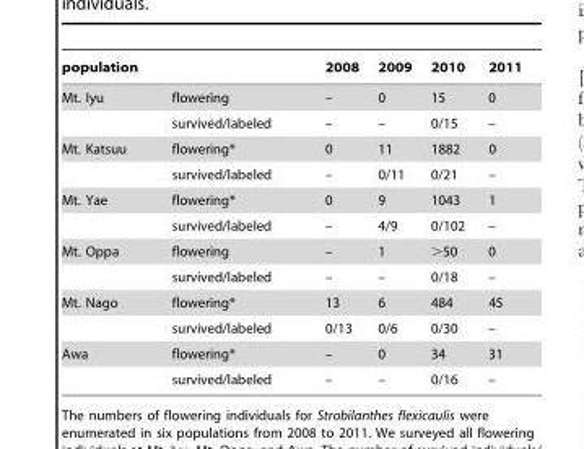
<table><thead><tr><td>population</td><td></td><td>2008</td><td>2009</td><td>2010</td><td>2011</td></tr></thead><tbody><tr><td rowspan="2">Mt. Iyu</td><td>flowering</td><td>–</td><td>0</td><td>15</td><td>0</td></tr><tr><td>survived/labeled</td><td>–</td><td>–</td><td>0/15</td><td>–</td></tr><tr><td rowspan="2">Mt. Katsuu</td><td>flowering*</td><td>0</td><td>11</td><td>1882</td><td>0</td></tr><tr><td>survived/labeled</td><td>–</td><td>0/11</td><td>0/21</td><td>–</td></tr><tr><td rowspan="2">Mt. Yae</td><td>flowering*</td><td>0</td><td>9</td><td>1043</td><td>1</td></tr><tr><td>survived/labeled</td><td>–</td><td>4/9</td><td>0/102</td><td>–</td></tr><tr><td rowspan="2">Mt. Oppa</td><td>flowering</td><td>–</td><td>1</td><td>&gt;50</td><td>0</td></tr><tr><td>survived/labeled</td><td>–</td><td>–</td><td>0/18</td><td>–</td></tr><tr><td rowspan="2">Mt. Nago</td><td>flowering*</td><td>13</td><td>6</td><td>484</td><td>45</td></tr><tr><td>survived/labeled</td><td>0/13</td><td>0/6</td><td>0/30</td><td>–</td></tr><tr><td rowspan="2">Awa</td><td>flowering*</td><td>–</td><td>0</td><td>34</td><td>31</td></tr><tr><td>survived/labeled</td><td>–</td><td>–</td><td>0/16</td><td>–</td></tr></tbody></table>